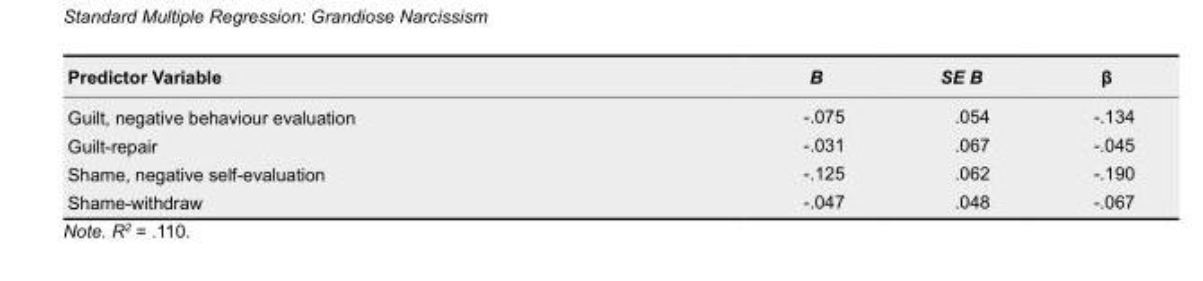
<table><thead><tr><td>Predictor Variable</td><td>B</td><td>SE B</td><td>β</td></tr></thead><tbody><tr><td>Guilt, negative behaviour evaluation</td><td>-.075</td><td>.054</td><td>-.134</td></tr><tr><td>Guilt-repair</td><td>-.031</td><td>.067</td><td>-.045</td></tr><tr><td>Shame, negative self-evaluation</td><td>-.125</td><td>.062</td><td>-.190</td></tr><tr><td>Shame-withdraw</td><td>-.047</td><td>.048</td><td>-.067</td></tr></tbody></table>